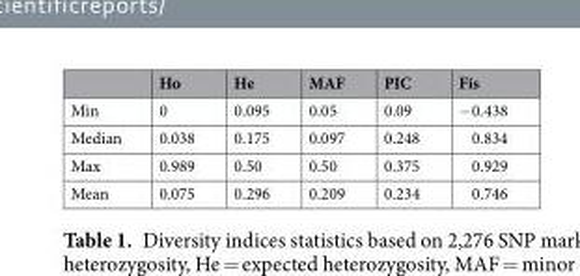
<table><thead><tr><td></td><td>Ho</td><td>He</td><td>MAF</td><td>PIC</td><td>Fis</td></tr></thead><tbody><tr><td>Min</td><td>0</td><td>0.095</td><td>0.05</td><td>0.09</td><td>−0.438</td></tr><tr><td>Median</td><td>0.038</td><td>0.175</td><td>0.097</td><td>0.248</td><td>0.834</td></tr><tr><td>Max</td><td>0.989</td><td>0.50</td><td>0.50</td><td>0.375</td><td>0.929</td></tr><tr><td>Mean</td><td>0.075</td><td>0.296</td><td>0.209</td><td>0.234</td><td>0.746</td></tr></tbody></table>